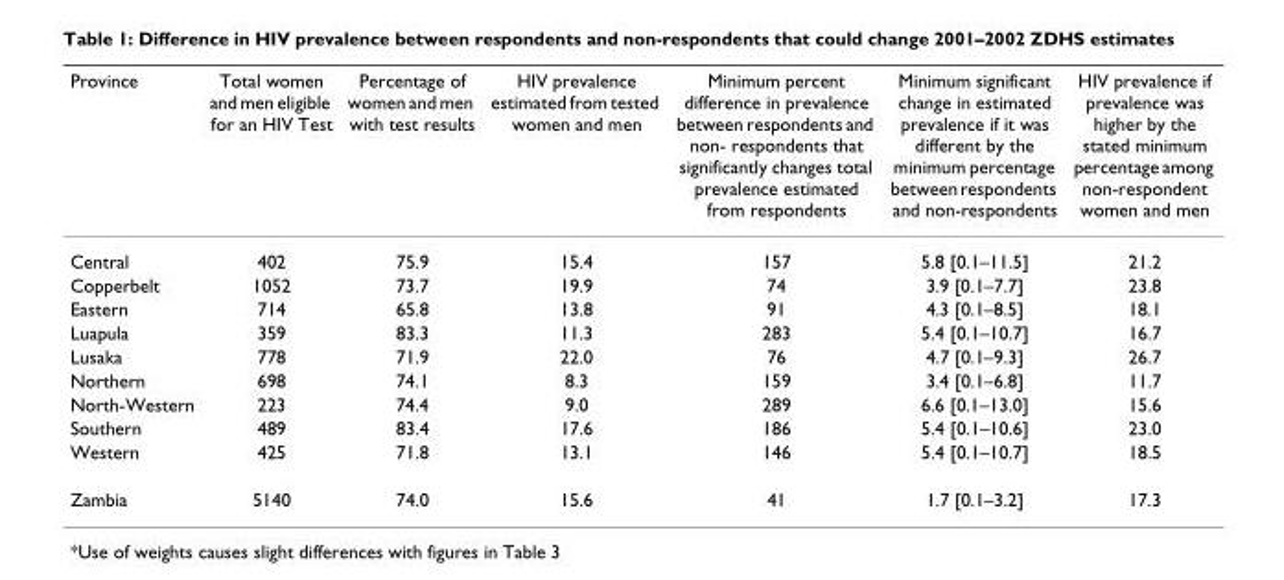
<table><thead><tr><td>Province</td><td>Total women and men eligible for an HIV Test</td><td>Percentage of women and men with test results</td><td>HIV prevalence estimated from tested women and men</td><td>Minimum percent difference in prevalence between respondents and non- respondents that significantly changes total prevalence estimated from respondents</td><td>Minimum significant change in estimated prevalence if it was different by the minimum percentage between respondents and non-respondents</td><td>HIV prevalence if prevalence was higher by the stated minimum percentage among non-respondent women and men</td></tr></thead><tbody><tr><td>Central</td><td>402</td><td>75.9</td><td>15.4</td><td>157</td><td>5.8 [0.1–11.5]</td><td>21.2</td></tr><tr><td>Copperbelt</td><td>1052</td><td>73.7</td><td>19.9</td><td>74</td><td>3.9 [0.1–7.7]</td><td>23.8</td></tr><tr><td>Eastern</td><td>714</td><td>65.8</td><td>13.8</td><td>91</td><td>4.3 [0.1–8.5]</td><td>18.1</td></tr><tr><td>Luapula</td><td>359</td><td>83.3</td><td>11.3</td><td>283</td><td>5.4 [0.1–10.7]</td><td>16.7</td></tr><tr><td>Lusaka</td><td>778</td><td>71.9</td><td>22.0</td><td>76</td><td>4.7 [0.1–9.3]</td><td>26.7</td></tr><tr><td>Northern</td><td>698</td><td>74.1</td><td>8.3</td><td>159</td><td>3.4 [0.1–6.8]</td><td>11.7</td></tr><tr><td>North-Western</td><td>223</td><td>74.4</td><td>9.0</td><td>289</td><td>6.6 [0.1–13.0]</td><td>15.6</td></tr><tr><td>Southern</td><td>489</td><td>83.4</td><td>17.6</td><td>186</td><td>5.4 [0.1–10.6]</td><td>23.0</td></tr><tr><td>Western</td><td>425</td><td>71.8</td><td>13.1</td><td>146</td><td>5.4 [0.1–10.7]</td><td>18.5</td></tr><tr><td>Zambia</td><td>5140</td><td>74.0</td><td>15.6</td><td>41</td><td>1.7 [0.1–3.2]</td><td>17.3</td></tr></tbody></table>